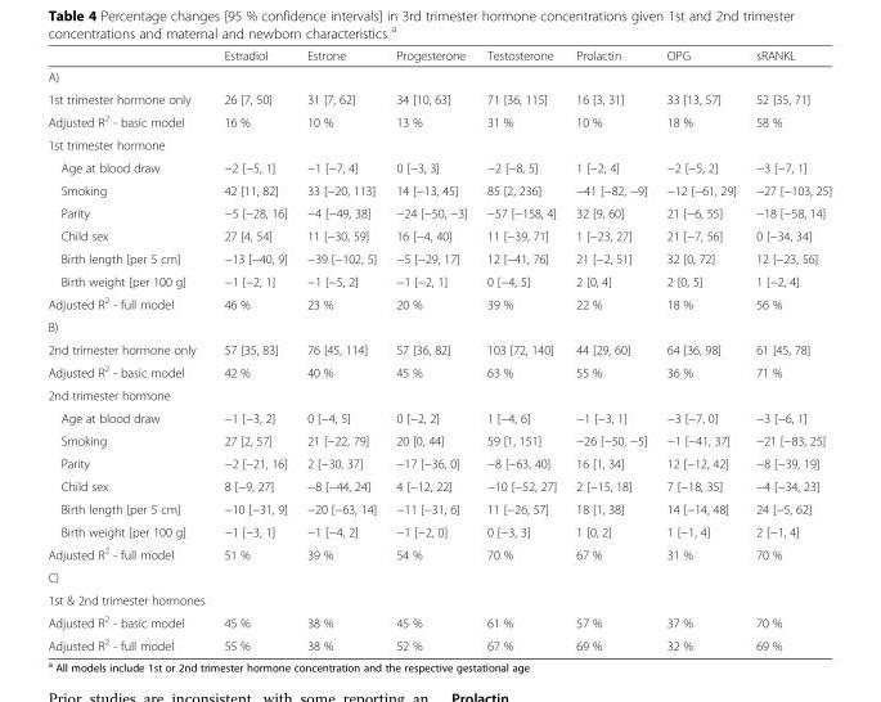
<table><thead><tr><td></td><td>Estradiol</td><td>Estrone</td><td>Progesterone</td><td>Testosterone</td><td>Prolactin</td><td>OPG</td><td>sRANKL</td></tr></thead><tbody><tr><td colspan="8">A)</td></tr><tr><td>1st trimester hormone only</td><td>26 [7, 50]</td><td>31 [7, 62]</td><td>34 [10, 63]</td><td>71 [36, 115]</td><td>16 [3, 31]</td><td>33 [13, 57]</td><td>52 [35, 71]</td></tr><tr><td>Adjusted R<sup>2</sup> - basic model</td><td>16 %</td><td>10 %</td><td>13 %</td><td>31 %</td><td>10 %</td><td>18 %</td><td>58 %</td></tr><tr><td colspan="8">1st trimester hormone</td></tr><tr><td>Age at blood draw</td><td>−2 [−5, 1]</td><td>−1 [−7, 4]</td><td>0 [−3, 3]</td><td>−2 [−8, 5]</td><td>1 [−2, 4]</td><td>−2 [−5, 2]</td><td>−3 [−7, 1]</td></tr><tr><td>Smoking</td><td>42 [11, 82]</td><td>33 [−20, 113]</td><td>14 [−13, 45]</td><td>85 [2, 236]</td><td>−41 [−82, −9]</td><td>−12 [−61, 29]</td><td>−27 [−103, 25]</td></tr><tr><td>Parity</td><td>−5 [−28, 16]</td><td>−4 [−49, 38]</td><td>−24 [−50, −3]</td><td>−57 [−158, 4]</td><td>32 [9, 60]</td><td>21 [−6, 55]</td><td>−18 [−58, 14]</td></tr><tr><td>Child sex</td><td>27 [4, 54]</td><td>11 [−30, 59]</td><td>16 [−4, 40]</td><td>11 [−39, 71]</td><td>1 [−23, 27]</td><td>21 [−7, 56]</td><td>0 [−34, 34]</td></tr><tr><td>Birth length [per 5 cm]</td><td>−13 [−40, 9]</td><td>−39 [−102, 5]</td><td>−5 [−29, 17]</td><td>12 [−41, 76]</td><td>21 [−2, 51]</td><td>32 [0, 72]</td><td>12 [−23, 56]</td></tr><tr><td>Birth weight [per 100 g]</td><td>−1 [−2, 1]</td><td>−1 [−5, 2]</td><td>−1 [−2, 1]</td><td>0 [−4, 5]</td><td>2 [0, 4]</td><td>2 [0, 5]</td><td>1 [−2, 4]</td></tr><tr><td>Adjusted R<sup>2</sup> - full model</td><td>46 %</td><td>23 %</td><td>20 %</td><td>39 %</td><td>22 %</td><td>18 %</td><td>56 %</td></tr><tr><td colspan="8">B)</td></tr><tr><td>2nd trimester hormone only</td><td>57 [35, 83]</td><td>76 [45, 114]</td><td>57 [36, 82]</td><td>103 [72, 140]</td><td>44 [29, 60]</td><td>64 [36, 98]</td><td>61 [45, 78]</td></tr><tr><td>Adjusted R<sup>2</sup> - basic model</td><td>42 %</td><td>40 %</td><td>45 %</td><td>63 %</td><td>55 %</td><td>36 %</td><td>71 %</td></tr><tr><td colspan="8">2nd trimester hormone</td></tr><tr><td>Age at blood draw</td><td>−1 [−3, 2]</td><td>0 [−4, 5]</td><td>0 [−2, 2]</td><td>1 [−4, 6]</td><td>−1 [−3, 1]</td><td>−3 [−7, 0]</td><td>−3 [−6, 1]</td></tr><tr><td>Smoking</td><td>27 [2, 57]</td><td>21 [−22, 79]</td><td>20 [0, 44]</td><td>59 [1, 151]</td><td>−26 [−50, −5]</td><td>−1 [−41, 37]</td><td>−21 [−83, 25]</td></tr><tr><td>Parity</td><td>−2 [−21, 16]</td><td>2 [−30, 37]</td><td>−17 [−36, 0]</td><td>−8 [−63, 40]</td><td>16 [1, 34]</td><td>12 [−12, 42]</td><td>−8 [−39, 19]</td></tr><tr><td>Child sex</td><td>8 [−9, 27]</td><td>−8 [−44, 24]</td><td>4 [−12, 22]</td><td>−10 [−52, 27]</td><td>2 [−15, 18]</td><td>7 [−18, 35]</td><td>−4 [−34, 23]</td></tr><tr><td>Birth length [per 5 cm]</td><td>−10 [−31, 9]</td><td>−20 [−63, 14]</td><td>−11 [−31, 6]</td><td>11 [−26, 57]</td><td>18 [1, 38]</td><td>14 [−14, 48]</td><td>24 [−5, 62]</td></tr><tr><td>Birth weight [per 100 g]</td><td>−1 [−3, 1]</td><td>−1 [−4, 2]</td><td>−1 [−2, 0]</td><td>0 [−3, 3]</td><td>1 [0, 2]</td><td>1 [−1, 4]</td><td>2 [−1, 4]</td></tr><tr><td>Adjusted R<sup>2</sup> - full model</td><td>51 %</td><td>39 %</td><td>54 %</td><td>70 %</td><td>67 %</td><td>31 %</td><td>70 %</td></tr><tr><td colspan="8">C)</td></tr><tr><td colspan="8">1st &amp; 2nd trimester hormones</td></tr><tr><td>Adjusted R<sup>2</sup> - basic model</td><td>45 %</td><td>38 %</td><td>45 %</td><td>61 %</td><td>57 %</td><td>37 %</td><td>70 %</td></tr><tr><td>Adjusted R<sup>2</sup> - full model</td><td>55 %</td><td>38 %</td><td>52 %</td><td>67 %</td><td>69 %</td><td>32 %</td><td>69 %</td></tr></tbody></table>